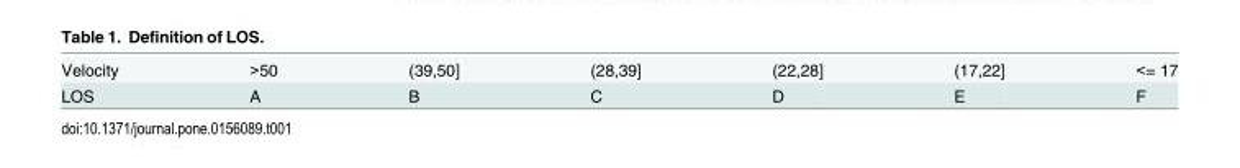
<table><tbody><tr><td>Velocity</td><td>&gt;50</td><td>(39,50]</td><td>(28,39]</td><td>(22,28]</td><td>(17,22]</td><td>&lt;= 17</td></tr><tr><td>LOS</td><td>A</td><td>B</td><td>C</td><td>D</td><td>E</td><td>F</td></tr></tbody></table>